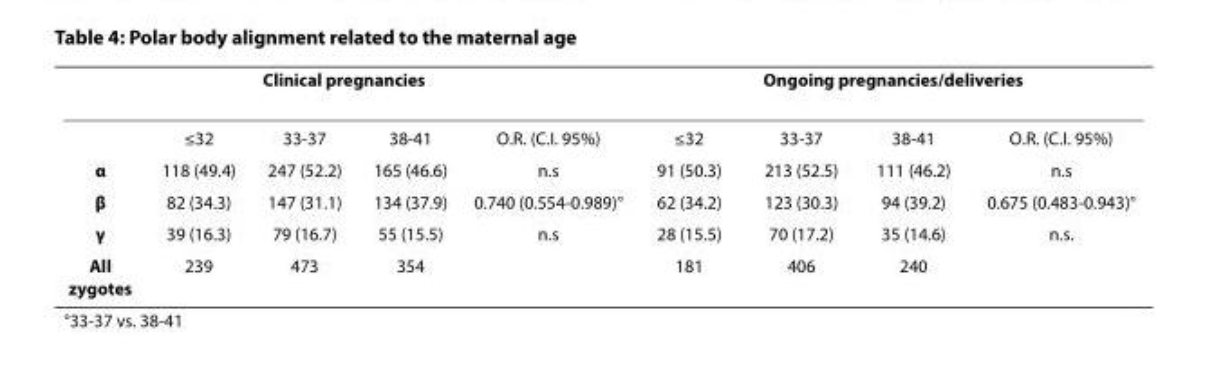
<table><thead><tr><td colspan="5">Clinical pregnancies</td><td colspan="4">Ongoing pregnancies/deliveries</td></tr><tr><td></td><td>≤32</td><td>33-37</td><td>38-41</td><td>O.R. (C.I. 95%)</td><td>≤32</td><td>33-37</td><td>38-41</td><td>O.R. (C.I. 95%)</td></tr></thead><tbody><tr><td>α</td><td>118 (49.4)</td><td>247 (52.2)</td><td>165 (46.6)</td><td>n.s</td><td>91 (50.3)</td><td>213 (52.5)</td><td>111 (46.2)</td><td>n.s</td></tr><tr><td>β</td><td>82 (34.3)</td><td>147 (31.1)</td><td>134 (37.9)</td><td>0.740 (0.554-0.989)°</td><td>62 (34.2)</td><td>123 (30.3)</td><td>94 (39.2)</td><td>0.675 (0.483-0.943)°</td></tr><tr><td>γ</td><td>39 (16.3)</td><td>79 (16.7)</td><td>55 (15.5)</td><td>n.s</td><td>28 (15.5)</td><td>70 (17.2)</td><td>35 (14.6)</td><td>n.s.</td></tr><tr><td>All zygotes</td><td>239</td><td>473</td><td>354</td><td></td><td>181</td><td>406</td><td>240</td><td></td></tr></tbody></table>